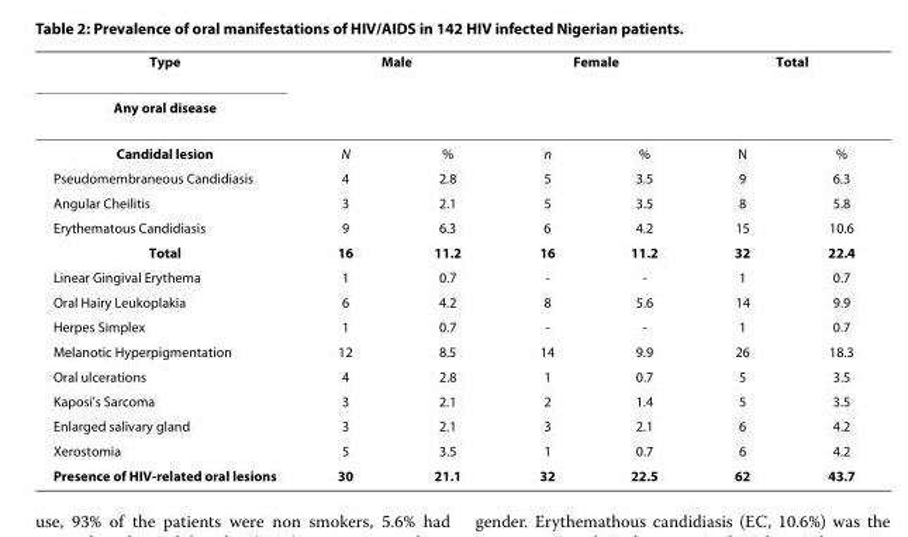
<table><thead><tr><td rowspan="2">Type Any oral disease</td><td colspan="2">Male</td><td colspan="2">Female</td><td colspan="2">Total</td></tr><tr><td></td><td></td><td></td><td></td><td></td><td></td></tr></thead><tbody><tr><td>Candidal lesion</td><td>N</td><td>%</td><td>n</td><td>%</td><td>N</td><td>%</td></tr><tr><td>Pseudomembraneous Candidiasis</td><td>4</td><td>2.8</td><td>5</td><td>3.5</td><td>9</td><td>6.3</td></tr><tr><td>Angular Cheilitis</td><td>3</td><td>2.1</td><td>5</td><td>3.5</td><td>8</td><td>5.8</td></tr><tr><td>Erythematous Candidiasis</td><td>9</td><td>6.3</td><td>6</td><td>4.2</td><td>15</td><td>10.6</td></tr><tr><td>Total</td><td>16</td><td>11.2</td><td>16</td><td>11.2</td><td>32</td><td>22.4</td></tr><tr><td>Linear Gingival Erythema</td><td>1</td><td>0.7</td><td>-</td><td>-</td><td>1</td><td>0.7</td></tr><tr><td>Oral Hairy Leukoplakia</td><td>6</td><td>4.2</td><td>8</td><td>5.6</td><td>14</td><td>9.9</td></tr><tr><td>Herpes Simplex</td><td>1</td><td>0.7</td><td>-</td><td>-</td><td>1</td><td>0.7</td></tr><tr><td>Melanotic Hyperpigmentation</td><td>12</td><td>8.5</td><td>14</td><td>9.9</td><td>26</td><td>18.3</td></tr><tr><td>Oral ulcerations</td><td>4</td><td>2.8</td><td>1</td><td>0.7</td><td>5</td><td>3.5</td></tr><tr><td>Kaposi&#x27;s Sarcoma</td><td>3</td><td>2.1</td><td>2</td><td>1.4</td><td>5</td><td>3.5</td></tr><tr><td>Enlarged salivary gland</td><td>3</td><td>2.1</td><td>3</td><td>2.1</td><td>6</td><td>4.2</td></tr><tr><td>Xerostomia</td><td>5</td><td>3.5</td><td>1</td><td>0.7</td><td>6</td><td>4.2</td></tr><tr><td>Presence of HIV-related oral lesions</td><td>30</td><td>21.1</td><td>32</td><td>22.5</td><td>62</td><td>43.7</td></tr></tbody></table>